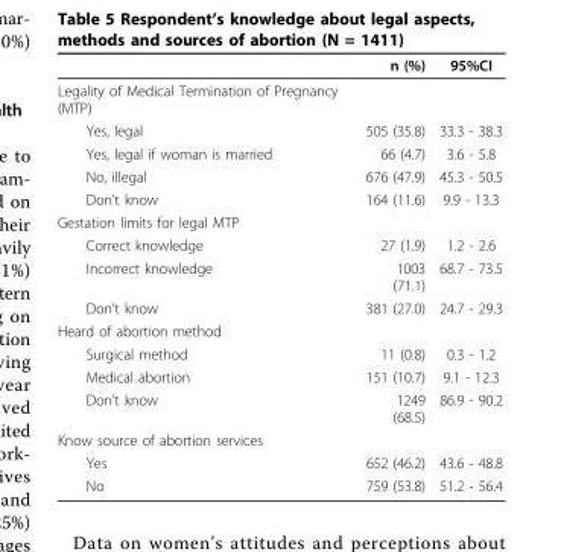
<table><thead><tr><td></td><td>n (%)</td><td>95%CI</td></tr></thead><tbody><tr><td colspan="3">Legality of Medical Termination of Pregnancy (MTP)</td></tr><tr><td>Yes, legal</td><td>505 (35.8)</td><td>33.3 - 38.3</td></tr><tr><td>Yes, legal if woman is married</td><td>66 (4.7)</td><td>3.6 - 5.8</td></tr><tr><td>No, illegal</td><td>676 (47.9)</td><td>45.3 - 50.5</td></tr><tr><td>Don’t know</td><td>164 (11.6)</td><td>9.9 - 13.3</td></tr><tr><td colspan="3">Gestation limits for legal MTP</td></tr><tr><td>Correct knowledge</td><td>27 (1.9)</td><td>1.2 - 2.6</td></tr><tr><td>Incorrect knowledge</td><td>1003 (71.1)</td><td>68.7 - 73.5</td></tr><tr><td>Don’t know</td><td>381 (27.0)</td><td>24.7 - 29.3</td></tr><tr><td colspan="3">Heard of abortion method</td></tr><tr><td>Surgical method</td><td>11 (0.8)</td><td>0.3 - 1.2</td></tr><tr><td>Medical abortion</td><td>151 (10.7)</td><td>9.1 - 12.3</td></tr><tr><td>Don’t know</td><td>1249 (68.5)</td><td>86.9 - 90.2</td></tr><tr><td colspan="3">Know source of abortion services</td></tr><tr><td>Yes</td><td>652 (46.2)</td><td>43.6 - 48.8</td></tr><tr><td>No</td><td>759 (53.8)</td><td>51.2 - 56.4</td></tr></tbody></table>